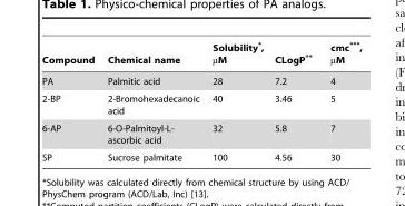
<table><thead><tr><td>Compound</td><td>Chemical name</td><td>Solubility*, µM</td><td>CLogP**</td><td>cmc***, µM</td></tr></thead><tbody><tr><td>PA</td><td>Palmitic acid</td><td>28</td><td>7.2</td><td>4</td></tr><tr><td>2-BP</td><td>2-Bromohexadecanoic acid</td><td>40</td><td>3.46</td><td>5</td></tr><tr><td>6-AP</td><td>6-O-Palmitoyl-L- ascorbic acid</td><td>32</td><td>5.8</td><td>7</td></tr><tr><td>SP</td><td>Sucrose palmitate</td><td>100</td><td>4.56</td><td>30</td></tr></tbody></table>